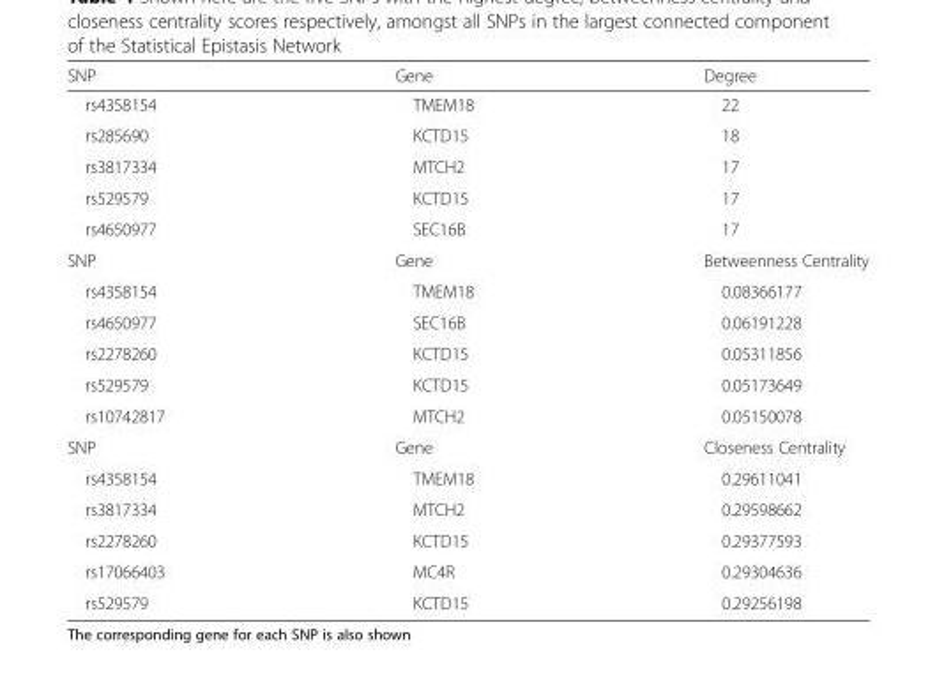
<table><thead><tr><td>SNP</td><td>Gene</td><td>Degree</td></tr></thead><tbody><tr><td>rs4358154</td><td>TMEM18</td><td>22</td></tr><tr><td>rs285690</td><td>KCTD15</td><td>18</td></tr><tr><td>rs3817334</td><td>MTCH2</td><td>17</td></tr><tr><td>rs529579</td><td>KCTD15</td><td>17</td></tr><tr><td>rs4650977</td><td>SEC16B</td><td>17</td></tr><tr><td>SNP</td><td>Gene</td><td>Betweenness Centrality</td></tr><tr><td>rs4358154</td><td>TMEM18</td><td>0.08366177</td></tr><tr><td>rs4650977</td><td>SEC16B</td><td>0.06191228</td></tr><tr><td>rs2278260</td><td>KCTD15</td><td>0.05311856</td></tr><tr><td>rs529579</td><td>KCTD15</td><td>0.05173649</td></tr><tr><td>rs10742817</td><td>MTCH2</td><td>0.05150078</td></tr><tr><td>SNP</td><td>Gene</td><td>Closeness Centrality</td></tr><tr><td>rs4358154</td><td>TMEM18</td><td>0.29611041</td></tr><tr><td>rs3817334</td><td>MTCH2</td><td>0.29598662</td></tr><tr><td>rs2278260</td><td>KCTD15</td><td>0.29377593</td></tr><tr><td>rs17066403</td><td>MC4R</td><td>0.29304636</td></tr><tr><td>rs529579</td><td>KCTD15</td><td>0.29256198</td></tr></tbody></table>